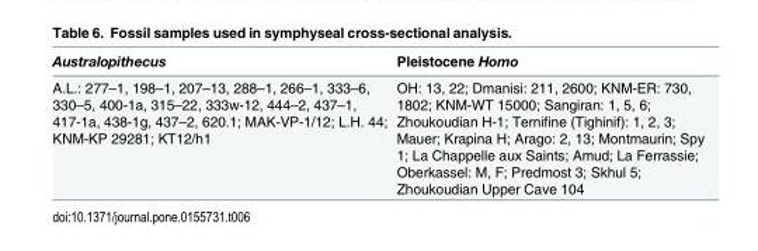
<table><thead><tr><td>Australopithecus</td><td>Pleistocene Homo</td></tr></thead><tbody><tr><td>A.L.: 277–1, 198–1, 207–13, 288–1, 266–1, 333–6, 330–5, 400-1a, 315–22, 333w-12, 444–2, 437–1, 417-1a, 438-1g, 437–2, 620.1; MAK-VP-1/12; L.H. 44; KNM-KP 29281; KT12/h1</td><td>OH: 13, 22; Dmanisi: 211, 2600; KNM-ER: 730, 1802; KNM-WT 15000; Sangiran: 1, 5, 6; Zhoukoudian H-1; Ternifine (Tighinif): 1, 2, 3; Mauer; Krapina H; Arago: 2, 13; Montmaurin; Spy 1; La Chappelle aux Saints; Amud; La Ferrassie; Oberkassel: M, F; Predmost 3; Skhul 5; Zhoukoudian Upper Cave 104</td></tr></tbody></table>